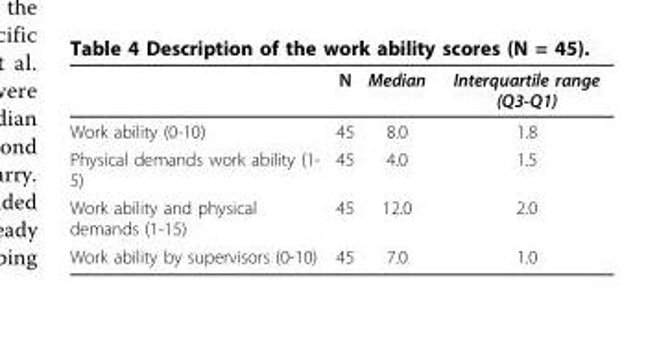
<table><thead><tr><td></td><td>N</td><td>Median</td><td>Interquartile range (Q3-Q1)</td></tr></thead><tbody><tr><td>Work ability (0-10)</td><td>45</td><td>8.0</td><td>1.8</td></tr><tr><td>Physical demands work ability (1- 5)</td><td>45</td><td>4.0</td><td>1.5</td></tr><tr><td>Work ability and physical demands (1-15)</td><td>45</td><td>12.0</td><td>2.0</td></tr><tr><td>Work ability by supervisors (0-10)</td><td>45</td><td>7.0</td><td>1.0</td></tr></tbody></table>